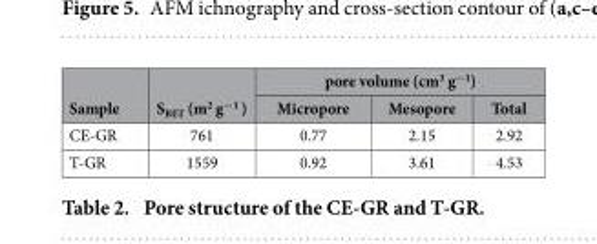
<table><thead><tr><td rowspan="2">Sample</td><td rowspan="2">S<sub>BET</sub> (m<sup>2</sup> g<sup>−1</sup> )</td><td colspan="3">pore volume (cm<sup>3</sup> g<sup>−1</sup>)</td></tr><tr><td>Micropore</td><td>Mesopore</td><td>Total</td></tr></thead><tbody><tr><td>CE-GR</td><td>761</td><td>0.77</td><td>2.15</td><td>2.92</td></tr><tr><td>T-GR</td><td>1559</td><td>0.92</td><td>3.61</td><td>4.53</td></tr></tbody></table>